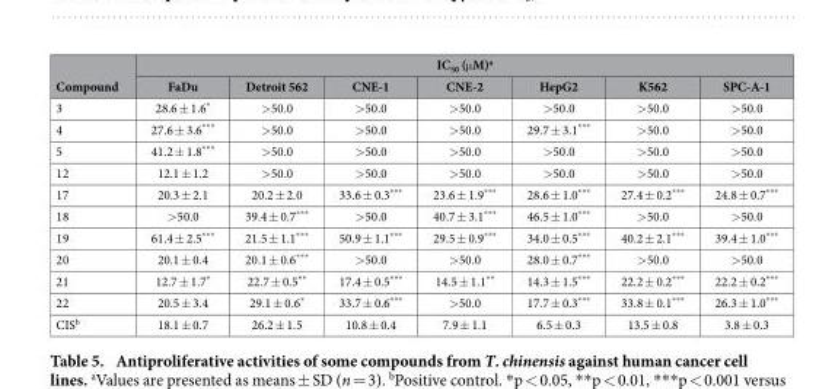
<table><thead><tr><td rowspan="2">Compound</td><td colspan="7">IC<sub>50</sub> (μ M)<sup>a</sup></td></tr><tr><td>FaDu</td><td>Detroit 562</td><td>CNE-1</td><td>CNE-2</td><td>HepG2</td><td>K562</td><td>SPC-A-1</td></tr></thead><tbody><tr><td>3</td><td>28.6 ± 1.6*</td><td>&gt; 50.0</td><td>&gt; 50.0</td><td>&gt; 50.0</td><td>&gt; 50.0</td><td>&gt; 50.0</td><td>&gt; 50.0</td></tr><tr><td>4</td><td>27.6 ± 3.6***</td><td>&gt; 50.0</td><td>&gt; 50.0</td><td>&gt; 50.0</td><td>29.7 ± 3.1***</td><td>&gt; 50.0</td><td>&gt; 50.0</td></tr><tr><td>5</td><td>41.2 ± 1.8***</td><td>&gt; 50.0</td><td>&gt; 50.0</td><td>&gt; 50.0</td><td>&gt; 50.0</td><td>&gt; 50.0</td><td>&gt; 50.0</td></tr><tr><td>12</td><td>12.1 ± 1.2</td><td>&gt; 50.0</td><td>&gt; 50.0</td><td>&gt; 50.0</td><td>&gt; 50.0</td><td>&gt; 50.0</td><td>&gt; 50.0</td></tr><tr><td>17</td><td>20.3 ± 2.1</td><td>20.2 ± 2.0</td><td>33.6 ± 0.3***</td><td>23.6 ± 1.9***</td><td>28.6 ± 1.0***</td><td>27.4 ± 0.2***</td><td>24.8 ± 0.7***</td></tr><tr><td>18</td><td>&gt; 50.0</td><td>39.4 ± 0.7***</td><td>&gt; 50.0</td><td>40.7 ± 3.1***</td><td>46.5 ± 1.0***</td><td>&gt; 50.0</td><td>&gt; 50.0</td></tr><tr><td>19</td><td>61.4 ± 2.5***</td><td>21.5 ± 1.1***</td><td>50.9 ± 1.1***</td><td>29.5 ± 0.9***</td><td>34.0 ± 0.5***</td><td>40.2 ± 2.1***</td><td>39.4 ± 1.0***</td></tr><tr><td>20</td><td>20.1 ± 0.4</td><td>20.1 ± 0.6***</td><td>&gt; 50.0</td><td>&gt; 50.0</td><td>28.0 ± 0.7***</td><td>&gt; 50.0</td><td>&gt; 50.0</td></tr><tr><td>21</td><td>12.7 ± 1.7*</td><td>22.7 ± 0.5**</td><td>17.4 ± 0.5***</td><td>14.5 ± 1.1**</td><td>14.3 ± 1.5***</td><td>22.2 ± 0.2***</td><td>22.2 ± 0.2***</td></tr><tr><td>22</td><td>20.5 ± 3.4</td><td>29.1 ± 0.6*</td><td>33.7 ± 0.6***</td><td>&gt; 50.0</td><td>17.7 ± 0.3***</td><td>33.8 ± 0.1***</td><td>26.3 ± 1.0***</td></tr><tr><td>CIS<sup>b</sup></td><td>18.1 ± 0.7</td><td>26.2 ± 1.5</td><td>10.8 ± 0.4</td><td>7.9 ± 1.1</td><td>6.5 ± 0.3</td><td>13.5 ± 0.8</td><td>3.8 ± 0.3</td></tr></tbody></table>